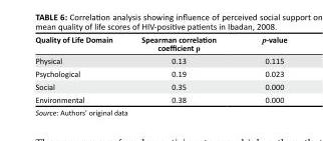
<table><thead><tr><td>Quality of Life Domain</td><td>Spearman correlation coefficient ρ</td><td>p-value</td></tr></thead><tbody><tr><td>Physical</td><td>0.13</td><td>0.115</td></tr><tr><td>Psychological</td><td>0.19</td><td>0.023</td></tr><tr><td>Social</td><td>0.35</td><td>0.000</td></tr><tr><td>Environmental</td><td>0.38</td><td>0.000</td></tr></tbody></table>